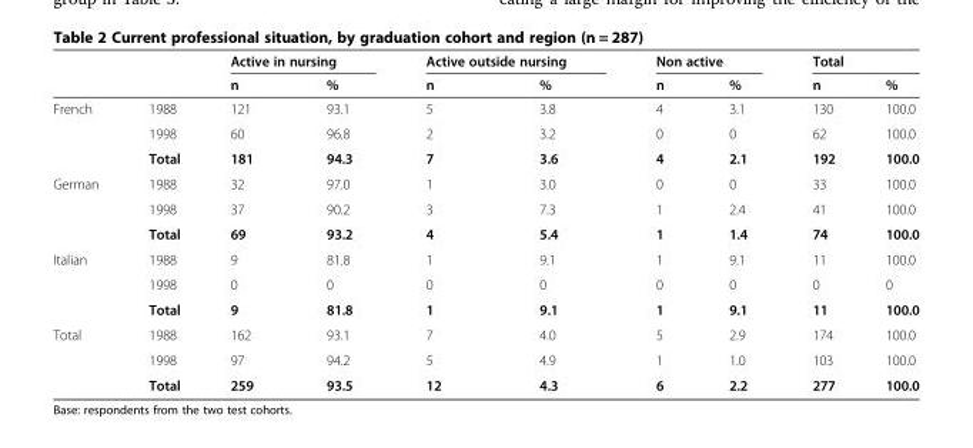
<table><thead><tr><td rowspan="2"></td><td rowspan="2"></td><td colspan="2">Active in nursing</td><td colspan="2">Active outside nursing</td><td colspan="2">Non active</td><td colspan="2">Total</td></tr><tr><td>n</td><td>%</td><td>n</td><td>%</td><td>n</td><td>%</td><td>n</td><td>%</td></tr></thead><tbody><tr><td rowspan="3">French</td><td>1988</td><td>121</td><td>93.1</td><td>5</td><td>3.8</td><td>4</td><td>3.1</td><td>130</td><td>100.0</td></tr><tr><td>1998</td><td>60</td><td>96.8</td><td>2</td><td>3.2</td><td>0</td><td>0</td><td>62</td><td>100.0</td></tr><tr><td>Total</td><td>181</td><td>94.3</td><td>7</td><td>3.6</td><td>4</td><td>2.1</td><td>192</td><td>100.0</td></tr><tr><td rowspan="3">German</td><td>1988</td><td>32</td><td>97.0</td><td>1</td><td>3.0</td><td>0</td><td>0</td><td>33</td><td>100.0</td></tr><tr><td>1998</td><td>37</td><td>90.2</td><td>3</td><td>7.3</td><td>1</td><td>2.4</td><td>41</td><td>100.0</td></tr><tr><td>Total</td><td>69</td><td>93.2</td><td>4</td><td>5.4</td><td>1</td><td>1.4</td><td>74</td><td>100.0</td></tr><tr><td rowspan="3">Italian</td><td>1988</td><td>9</td><td>81.8</td><td>1</td><td>9.1</td><td>1</td><td>9.1</td><td>11</td><td>100.0</td></tr><tr><td>1998</td><td>0</td><td>0</td><td>0</td><td>0</td><td>0</td><td>0</td><td>0</td><td>0</td></tr><tr><td>Total</td><td>9</td><td>81.8</td><td>1</td><td>9.1</td><td>1</td><td>9.1</td><td>11</td><td>100.0</td></tr><tr><td rowspan="3">Total</td><td>1988</td><td>162</td><td>93.1</td><td>7</td><td>4.0</td><td>5</td><td>2.9</td><td>174</td><td>100.0</td></tr><tr><td>1998</td><td>97</td><td>94.2</td><td>5</td><td>4.9</td><td>1</td><td>1.0</td><td>103</td><td>100.0</td></tr><tr><td>Total</td><td>259</td><td>93.5</td><td>12</td><td>4.3</td><td>6</td><td>2.2</td><td>277</td><td>100.0</td></tr></tbody></table>